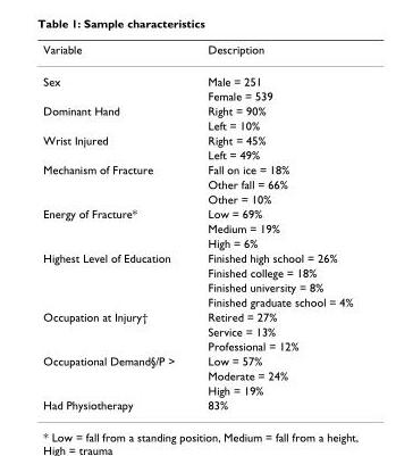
<table><thead><tr><td>Variable</td><td>Description</td></tr></thead><tbody><tr><td rowspan="2">Sex</td><td>Male = 251</td></tr><tr><td>Female = 539</td></tr><tr><td rowspan="2">Dominant Hand</td><td>Right = 90%</td></tr><tr><td>Left = 10%</td></tr><tr><td rowspan="2">Wrist Injured</td><td>Right = 45%</td></tr><tr><td>Left = 49%</td></tr><tr><td rowspan="3">Mechanism of Fracture</td><td>Fall on ice = 18%</td></tr><tr><td>Other fall = 66%</td></tr><tr><td>Other = 10%</td></tr><tr><td rowspan="3">Energy of Fracture*</td><td>Low = 69%</td></tr><tr><td>Medium = 19%</td></tr><tr><td>High = 6%</td></tr><tr><td rowspan="4">Highest Level of Education</td><td>Finished high school = 26%</td></tr><tr><td>Finished college = 18%</td></tr><tr><td>Finished university = 8%</td></tr><tr><td>Finished graduate school = 4%</td></tr><tr><td rowspan="3">Occupation at Injury†</td><td>Retired = 27%</td></tr><tr><td>Service = 13%</td></tr><tr><td>Professional = 12%</td></tr><tr><td rowspan="3">Occupational Demand§/P &gt;</td><td>Low = 57%</td></tr><tr><td>Moderate = 24%</td></tr><tr><td>High = 19%</td></tr><tr><td>Had Physiotherapy</td><td>83%</td></tr></tbody></table>